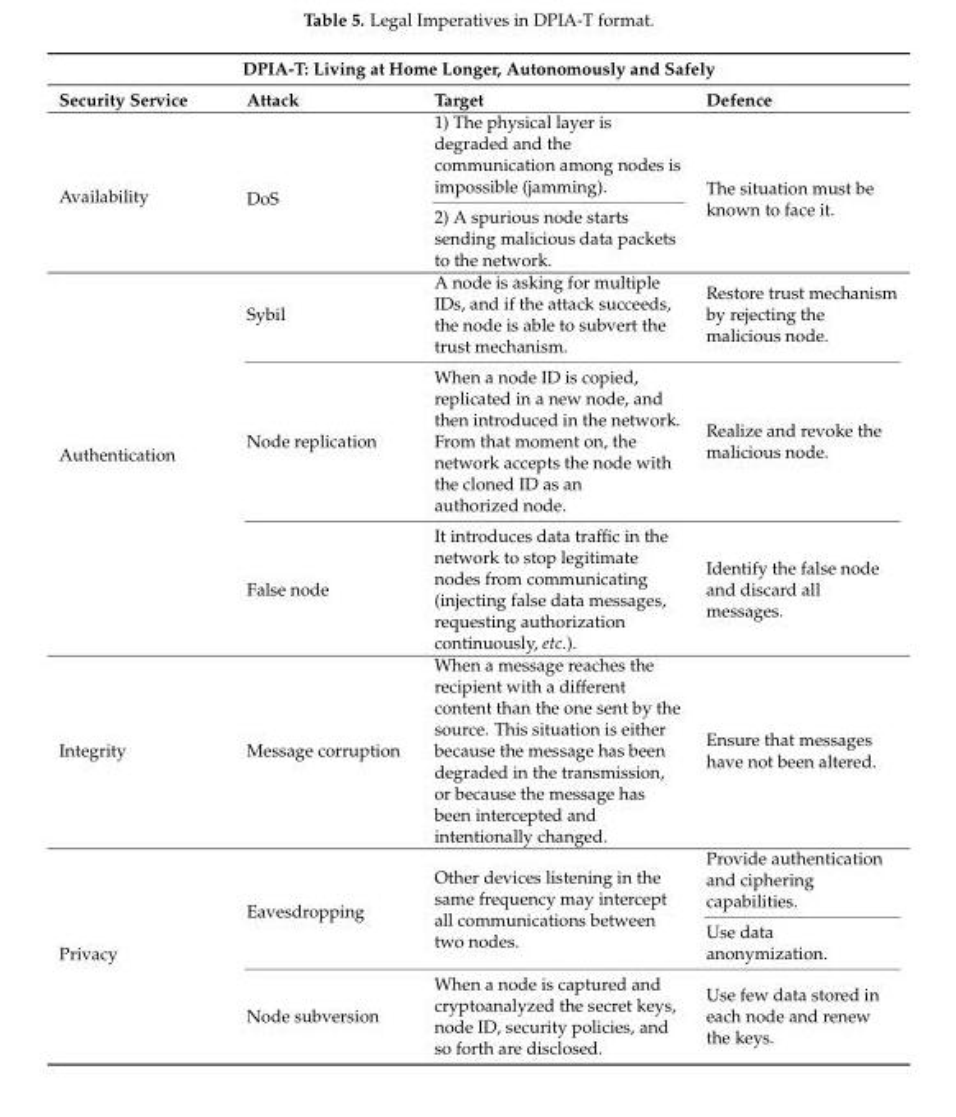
<table><thead><tr><td colspan="4">DPIA-T: Living at Home Longer, Autonomously and Safely</td></tr><tr><td>Security Service</td><td>Attack</td><td>Target</td><td>Defence</td></tr></thead><tbody><tr><td rowspan="2">Availability</td><td rowspan="2">DoS</td><td>1) The physical layer is degraded and the communication among nodes is impossible (jamming).</td><td rowspan="2">The situation must be known to face it.</td></tr><tr><td>2) A spurious node starts sending malicious data packets to the network.</td></tr><tr><td rowspan="3">Authentication</td><td>Sybil</td><td>A node is asking for multiple IDs, and if the attack succeeds, the node is able to subvert the trust mechanism.</td><td>Restore trust mechanism by rejecting the malicious node.</td></tr><tr><td>Node replication</td><td>When a node ID is copied, replicated in a new node, and then introduced in the network. From that moment on, the network accepts the node with the cloned ID as an authorized node.</td><td>Realize and revoke the malicious node.</td></tr><tr><td>False node</td><td>It introduces data traffic in the network to stop legitimate nodes from communicating (injecting false data messages, requesting authorization continuously, etc.).</td><td>Identify the false node and discard all messages.</td></tr><tr><td>Integrity</td><td>Message corruption</td><td>When a message reaches the recipient with a different content than the one sent by the source. This situation is either because the message has been degraded in the transmission, or because the message has been intercepted and intentionally changed.</td><td>Ensure that messages have not been altered.</td></tr><tr><td rowspan="3">Privacy</td><td rowspan="2">Eavesdropping</td><td rowspan="2">Other devices listening in the same frequency may intercept all communications between two nodes.</td><td>Provide authentication and ciphering capabilities.</td></tr><tr><td>Use data anonymization.</td></tr><tr><td>Node subversion</td><td>When a node is captured and cryptoanalyzed the secret keys, node ID, security policies, and so forth are disclosed.</td><td>Use few data stored in each node and renew the keys.</td></tr></tbody></table>